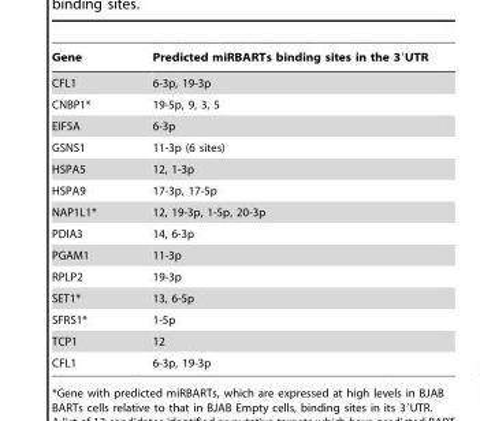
<table><thead><tr><td>Gene</td><td>Predicted miRBARTs binding sites in the 3′UTR</td></tr></thead><tbody><tr><td>CFL1</td><td>6-3p, 19-3p</td></tr><tr><td>CNBP1*</td><td>19-5p, 9, 3, 5</td></tr><tr><td>EIF5A</td><td>6-3p</td></tr><tr><td>GSNS1</td><td>11-3p (6 sites)</td></tr><tr><td>HSPA5</td><td>12, 1-3p</td></tr><tr><td>HSPA9</td><td>17-3p, 17-5p</td></tr><tr><td>NAP1L1*</td><td>12, 19-3p, 1-5p, 20-3p</td></tr><tr><td>PDIA3</td><td>14, 6-3p</td></tr><tr><td>PGAM1</td><td>11-3p</td></tr><tr><td>RPLP2</td><td>19-3p</td></tr><tr><td>SET1*</td><td>13, 6-5p</td></tr><tr><td>SFRS1*</td><td>1-5p</td></tr><tr><td>TCP1</td><td>12</td></tr><tr><td>CFL1</td><td>6-3p, 19-3p</td></tr></tbody></table>